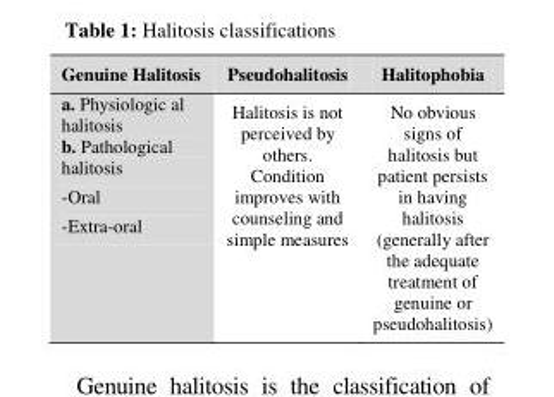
<table><thead><tr><td>Genuine Halitosis</td><td>Pseudohalitosis</td><td>Halitophobia</td></tr></thead><tbody><tr><td>a. Physiologic al halitosis b. Pathological halitosis -Oral -Extra-oral</td><td>Halitosis is not perceived by others. Condition improves with counseling and simple measures</td><td>No obvious signs of halitosis but patient persists in having halitosis (generally after the adequate treatment of genuine or pseudohalitosis)</td></tr></tbody></table>